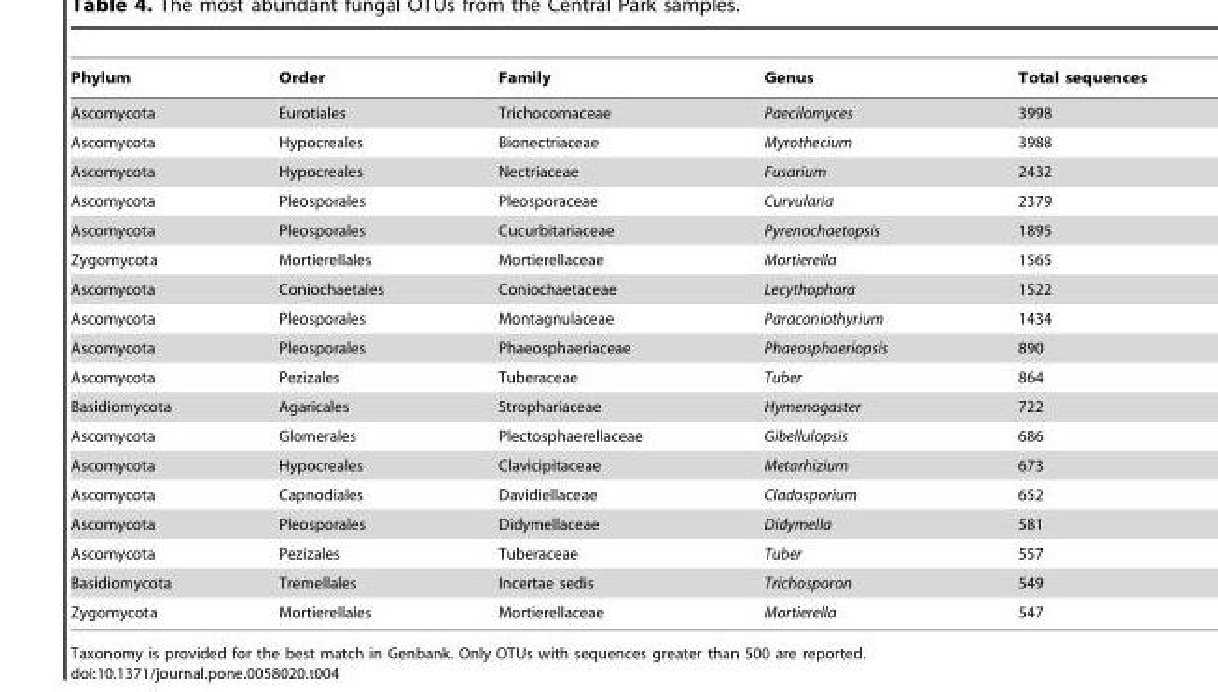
<table><thead><tr><td>Phylum</td><td>Order</td><td>Family</td><td>Genus</td><td>Total sequences</td></tr></thead><tbody><tr><td>Ascomycota</td><td>Eurotiales</td><td>Trichocomaceae</td><td>Paecilomyces</td><td>3998</td></tr><tr><td>Ascomycota</td><td>Hypocreales</td><td>Bionectriaceae</td><td>Myrothecium</td><td>3988</td></tr><tr><td>Ascomycota</td><td>Hypocreales</td><td>Nectriaceae</td><td>Fusarium</td><td>2432</td></tr><tr><td>Ascomycota</td><td>Pleosporales</td><td>Pleosporaceae</td><td>Curvularia</td><td>2379</td></tr><tr><td>Ascomycota</td><td>Pleosporales</td><td>Cucurbitariaceae</td><td>Pyrenochaetopsis</td><td>1895</td></tr><tr><td>Zygomycota</td><td>Mortierellales</td><td>Mortierellaceae</td><td>Mortierella</td><td>1565</td></tr><tr><td>Ascomycota</td><td>Coniochaetales</td><td>Coniochaetaceae</td><td>Lecythophora</td><td>1522</td></tr><tr><td>Ascomycota</td><td>Pleosporales</td><td>Montagnulaceae</td><td>Paraconiothyrium</td><td>1434</td></tr><tr><td>Ascomycota</td><td>Pleosporales</td><td>Phaeosphaeriaceae</td><td>Phaeosphaeriopsis</td><td>890</td></tr><tr><td>Ascomycota</td><td>Pezizales</td><td>Tuberaceae</td><td>Tuber</td><td>864</td></tr><tr><td>Basidiomycota</td><td>Agaricales</td><td>Strophariaceae</td><td>Hymenogaster</td><td>722</td></tr><tr><td>Ascomycota</td><td>Glomerales</td><td>Plectosphaerellaceae</td><td>Gibellulopsis</td><td>686</td></tr><tr><td>Ascomycota</td><td>Hypocreales</td><td>Clavicipitaceae</td><td>Metarhizium</td><td>673</td></tr><tr><td>Ascomycota</td><td>Capnodiales</td><td>Davidiellaceae</td><td>Cladosporium</td><td>652</td></tr><tr><td>Ascomycota</td><td>Pleosporales</td><td>Didymellaceae</td><td>Didymella</td><td>581</td></tr><tr><td>Ascomycota</td><td>Pezizales</td><td>Tuberaceae</td><td>Tuber</td><td>557</td></tr><tr><td>Basidiomycota</td><td>Tremellales</td><td>Incertae sedis</td><td>Trichosporon</td><td>549</td></tr><tr><td>Zygomycota</td><td>Mortierellales</td><td>Mortierellaceae</td><td>Mortierella</td><td>547</td></tr></tbody></table>